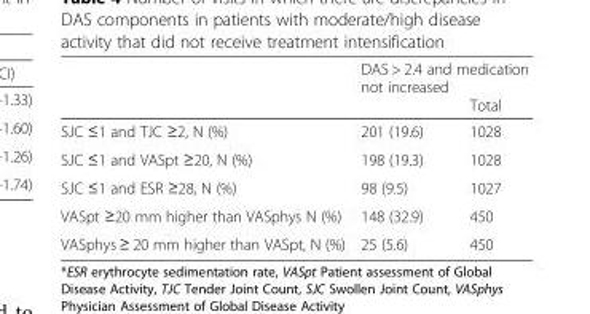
<table><thead><tr><td rowspan="2"></td><td colspan="2">DAS &gt; 2.4 and medication not increased</td></tr><tr><td></td><td>Total</td></tr></thead><tbody><tr><td>SJC ≤1 and TJC ≥2, N (%)</td><td>201 (19.6)</td><td>1028</td></tr><tr><td>SJC ≤1 and VASpt ≥20, N (%)</td><td>198 (19.3)</td><td>1028</td></tr><tr><td>SJC ≤1 and ESR ≥28, N (%)</td><td>98 (9.5)</td><td>1027</td></tr><tr><td>VASpt ≥20 mm higher than VASphys N (%)</td><td>148 (32.9)</td><td>450</td></tr><tr><td>VASphys ≥ 20 mm higher than VASpt, N (%)</td><td>25 (5.6)</td><td>450</td></tr></tbody></table>